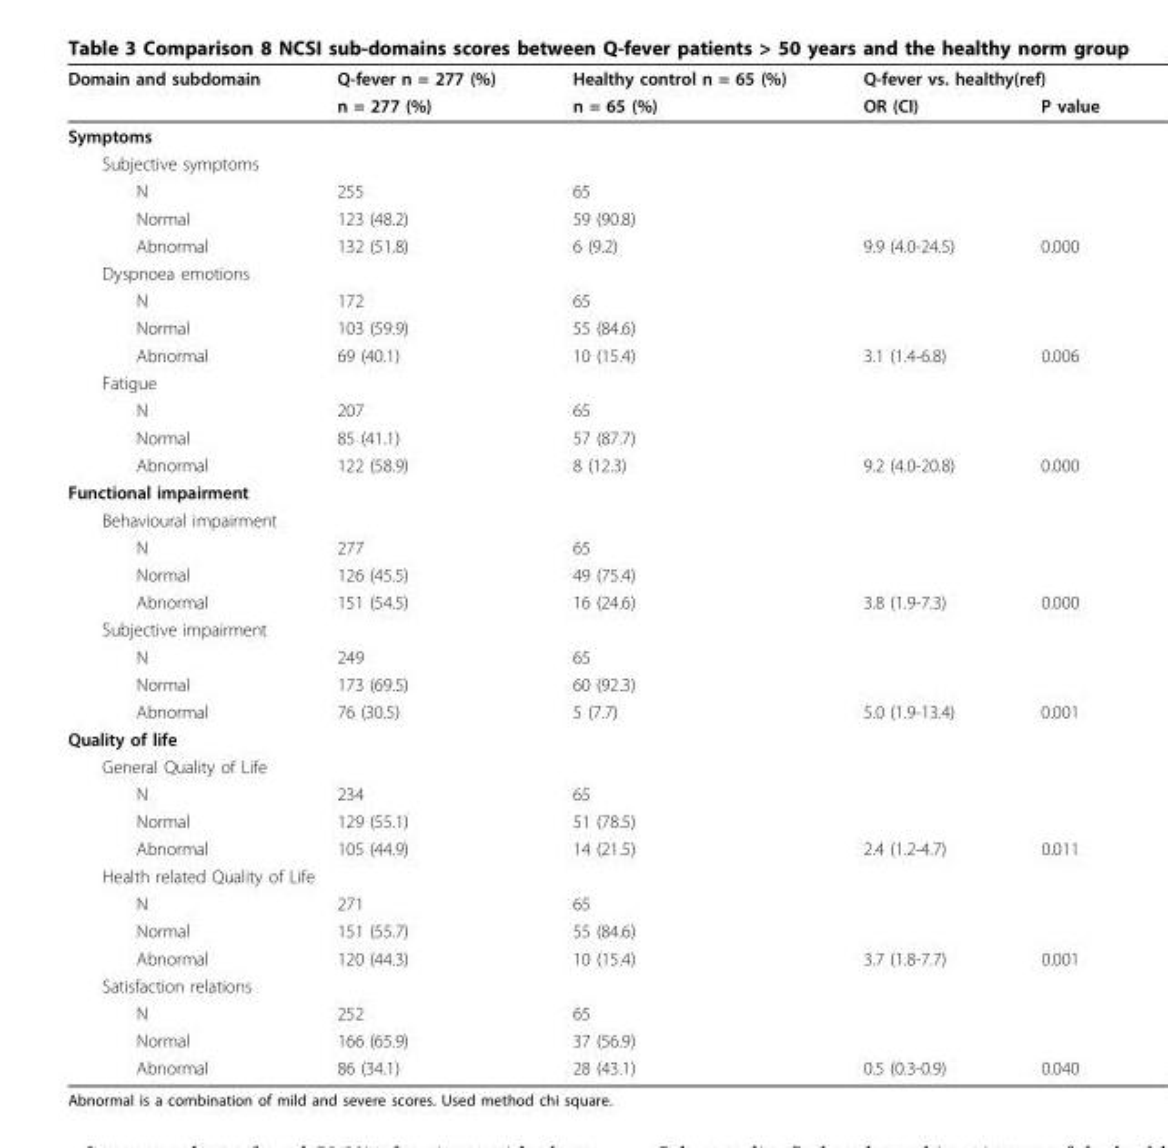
<table><thead><tr><td rowspan="2">Domain and subdomain</td><td rowspan="2">Q-fever n = 277 (%) n = 277 (%)</td><td rowspan="2">Healthy control n = 65 (%) n = 65 (%)</td><td colspan="2">Q-fever vs. healthy(ref)</td></tr><tr><td>OR (CI)</td><td>P value</td></tr></thead><tbody><tr><td colspan="5">Symptoms</td></tr><tr><td colspan="5">Subjective symptoms</td></tr><tr><td>N</td><td>255</td><td>65</td><td></td><td></td></tr><tr><td>Normal</td><td>123 (48.2)</td><td>59 (90.8)</td><td></td><td></td></tr><tr><td>Abnormal</td><td>132 (51.8)</td><td>6 (9.2)</td><td>9.9 (4.0-24.5)</td><td>0.000</td></tr><tr><td colspan="5">Dyspnoea emotions</td></tr><tr><td>N</td><td>172</td><td>65</td><td></td><td></td></tr><tr><td>Normal</td><td>103 (59.9)</td><td>55 (84.6)</td><td></td><td></td></tr><tr><td>Abnormal</td><td>69 (40.1)</td><td>10 (15.4)</td><td>3.1 (1.4-6.8)</td><td>0.006</td></tr><tr><td colspan="5">Fatigue</td></tr><tr><td>N</td><td>207</td><td>65</td><td></td><td></td></tr><tr><td>Normal</td><td>85 (41.1)</td><td>57 (87.7)</td><td></td><td></td></tr><tr><td>Abnormal</td><td>122 (58.9)</td><td>8 (12.3)</td><td>9.2 (4.0-20.8)</td><td>0.000</td></tr><tr><td colspan="5">Functional impairment</td></tr><tr><td colspan="5">Behavioural impairment</td></tr><tr><td>N</td><td>277</td><td>65</td><td></td><td></td></tr><tr><td>Normal</td><td>126 (45.5)</td><td>49 (75.4)</td><td></td><td></td></tr><tr><td>Abnormal</td><td>151 (54.5)</td><td>16 (24.6)</td><td>3.8 (1.9-7.3)</td><td>0.000</td></tr><tr><td colspan="5">Subjective impairment</td></tr><tr><td>N</td><td>249</td><td>65</td><td></td><td></td></tr><tr><td>Normal</td><td>173 (69.5)</td><td>60 (92.3)</td><td></td><td></td></tr><tr><td>Abnormal</td><td>76 (30.5)</td><td>5 (7.7)</td><td>5.0 (1.9-13.4)</td><td>0.001</td></tr><tr><td colspan="5">Quality of life</td></tr><tr><td colspan="5">General Quality of Life</td></tr><tr><td>N</td><td>234</td><td>65</td><td></td><td></td></tr><tr><td>Normal</td><td>129 (55.1)</td><td>51 (78.5)</td><td></td><td></td></tr><tr><td>Abnormal</td><td>105 (44.9)</td><td>14 (21.5)</td><td>2.4 (1.2-4.7)</td><td>0.011</td></tr><tr><td colspan="5">Health related Quality of Life</td></tr><tr><td>N</td><td>271</td><td>65</td><td></td><td></td></tr><tr><td>Normal</td><td>151 (55.7)</td><td>55 (84.6)</td><td></td><td></td></tr><tr><td>Abnormal</td><td>120 (44.3)</td><td>10 (15.4)</td><td>3.7 (1.8-7.7)</td><td>0.001</td></tr><tr><td colspan="5">Satisfaction relations</td></tr><tr><td>N</td><td>252</td><td>65</td><td></td><td></td></tr><tr><td>Normal</td><td>166 (65.9)</td><td>37 (56.9)</td><td></td><td></td></tr><tr><td>Abnormal</td><td>86 (34.1)</td><td>28 (43.1)</td><td>0.5 (0.3-0.9)</td><td>0.040</td></tr></tbody></table>